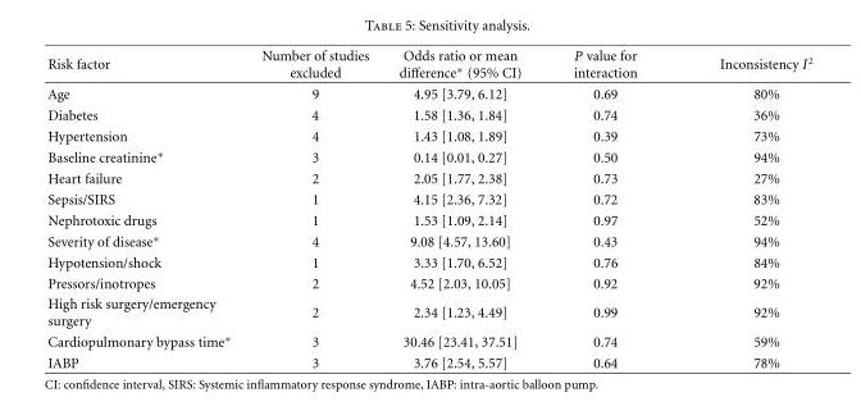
<table><thead><tr><td>Risk factor</td><td>Number of studies excluded</td><td>Odds ratio or mean difference∗ (95% CI)</td><td>P value for interaction</td><td>Inconsistency I<sup>2</sup></td></tr></thead><tbody><tr><td>Age</td><td>9</td><td>4.95 [3.79, 6.12]</td><td>0.69</td><td>80%</td></tr><tr><td>Diabetes</td><td>4</td><td>1.58 [1.36, 1.84]</td><td>0.74</td><td>36%</td></tr><tr><td>Hypertension</td><td>4</td><td>1.43 [1.08, 1.89]</td><td>0.39</td><td>73%</td></tr><tr><td>Baseline creatinine∗</td><td>3</td><td>0.14 [0.01, 0.27]</td><td>0.50</td><td>94%</td></tr><tr><td>Heart failure</td><td>2</td><td>2.05 [1.77, 2.38]</td><td>0.73</td><td>27%</td></tr><tr><td>Sepsis/SIRS</td><td>1</td><td>4.15 [2.36, 7.32]</td><td>0.72</td><td>83%</td></tr><tr><td>Nephrotoxic drugs</td><td>1</td><td>1.53 [1.09, 2.14]</td><td>0.97</td><td>52%</td></tr><tr><td>Severity of disease∗</td><td>4</td><td>9.08 [4.57, 13.60]</td><td>0.43</td><td>94%</td></tr><tr><td>Hypotension/shock</td><td>1</td><td>3.33 [1.70, 6.52]</td><td>0.76</td><td>84%</td></tr><tr><td>Pressors/inotropes</td><td>2</td><td>4.52 [2.03, 10.05]</td><td>0.92</td><td>92%</td></tr><tr><td>High risk surgery/emergency surgery</td><td>2</td><td>2.34 [1.23, 4.49]</td><td>0.99</td><td>92%</td></tr><tr><td>Cardiopulmonary bypass time∗</td><td>3</td><td>30.46 [23.41, 37.51]</td><td>0.74</td><td>59%</td></tr><tr><td>IABP</td><td>3</td><td>3.76 [2.54, 5.57]</td><td>0.64</td><td>78%</td></tr></tbody></table>